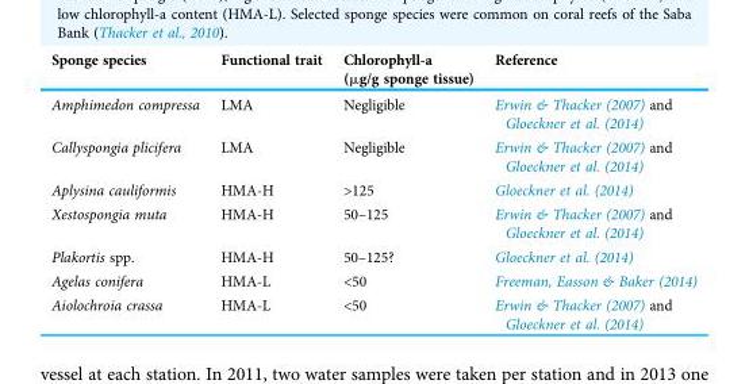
<table><thead><tr><td>Sponge species</td><td>Functional trait</td><td>Chlorophyll-a (μg/g sponge tissue)</td><td>Reference</td></tr></thead><tbody><tr><td>Amphimedon compressa</td><td>LMA</td><td>Negligible</td><td>Erwin &amp; Thacker (2007) and Gloeckner et al. (2014)</td></tr><tr><td>Callyspongia plicifera</td><td>LMA</td><td>Negligible</td><td>Erwin &amp; Thacker (2007) and Gloeckner et al. (2014)</td></tr><tr><td>Aplysina cauliformis</td><td>HMA-H</td><td>&gt;125</td><td>Gloeckner et al. (2014)</td></tr><tr><td>Xestospongia muta</td><td>HMA-H</td><td>50–125</td><td>Erwin &amp; Thacker (2007) and Gloeckner et al. (2014)</td></tr><tr><td>Plakortis spp.</td><td>HMA-H</td><td>50–125?</td><td>Gloeckner et al. (2014)</td></tr><tr><td>Agelas conifera</td><td>HMA-L</td><td>&lt;50</td><td>Freeman, Easson &amp; Baker (2014)</td></tr><tr><td>Aiolochroia crassa</td><td>HMA-L</td><td>&lt;50</td><td>Erwin &amp; Thacker (2007) and Gloeckner et al. (2014)</td></tr></tbody></table>